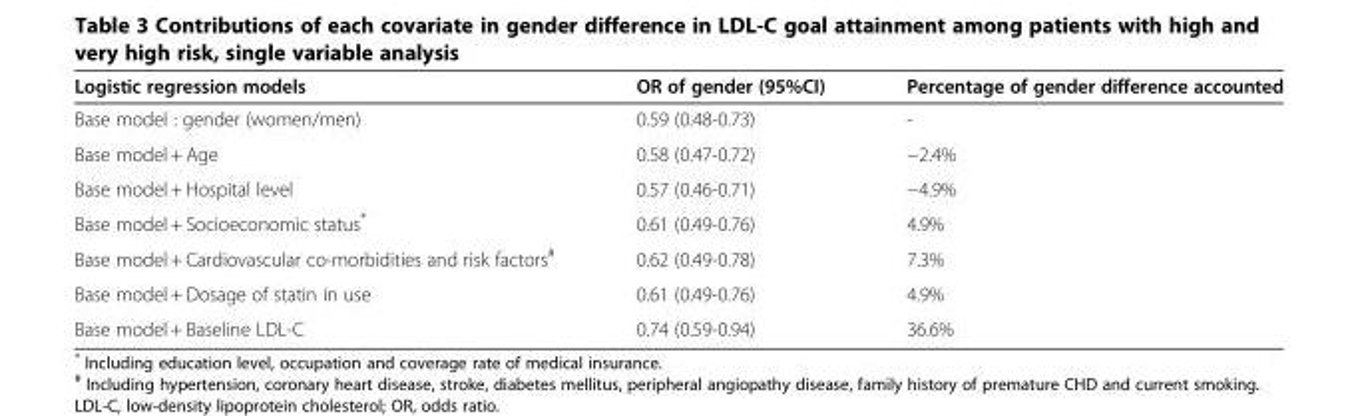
<table><thead><tr><td>Logistic regression models</td><td>OR of gender (95%CI)</td><td>Percentage of gender difference accounted</td></tr></thead><tbody><tr><td>Base model : gender (women/men)</td><td>0.59 (0.48-0.73)</td><td>-</td></tr><tr><td>Base model + Age</td><td>0.58 (0.47-0.72)</td><td>−2.4%</td></tr><tr><td>Base model + Hospital level</td><td>0.57 (0.46-0.71)</td><td>−4.9%</td></tr><tr><td>Base model + Socioeconomic status*</td><td>0.61 (0.49-0.76)</td><td>4.9%</td></tr><tr><td>Base model + Cardiovascular co-morbidities and risk factors<sup>#</sup></td><td>0.62 (0.49-0.78)</td><td>7.3%</td></tr><tr><td>Base model + Dosage of statin in use</td><td>0.61 (0.49-0.76)</td><td>4.9%</td></tr><tr><td>Base model + Baseline LDL-C</td><td>0.74 (0.59-0.94)</td><td>36.6%</td></tr></tbody></table>